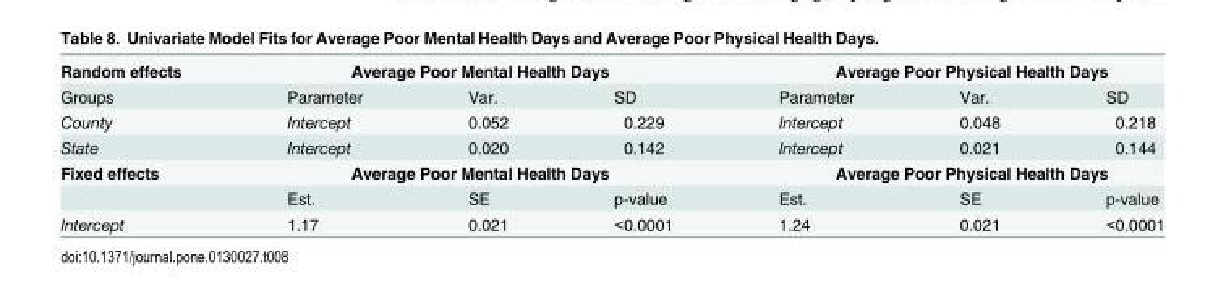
<table><tbody><tr><td>Random effects</td><td colspan="3">Average Poor Mental Health Days</td><td colspan="3">Average Poor Physical Health Days</td></tr><tr><td>Groups</td><td>Parameter</td><td>Var.</td><td>SD</td><td>Parameter</td><td>Var.</td><td>SD</td></tr><tr><td>County</td><td>Intercept</td><td>0.052</td><td>0.229</td><td>Intercept</td><td>0.048</td><td>0.218</td></tr><tr><td>State</td><td>Intercept</td><td>0.020</td><td>0.142</td><td>Intercept</td><td>0.021</td><td>0.144</td></tr><tr><td rowspan="2">Fixed effects</td><td colspan="3">Average Poor Mental Health Days</td><td colspan="3">Average Poor Physical Health Days</td></tr><tr><td>Est.</td><td>SE</td><td>p-value</td><td>Est.</td><td>SE</td><td>p-value</td></tr><tr><td>Intercept</td><td>1.17</td><td>0.021</td><td>&lt;0.0001</td><td>1.24</td><td>0.021</td><td>&lt;0.0001</td></tr></tbody></table>